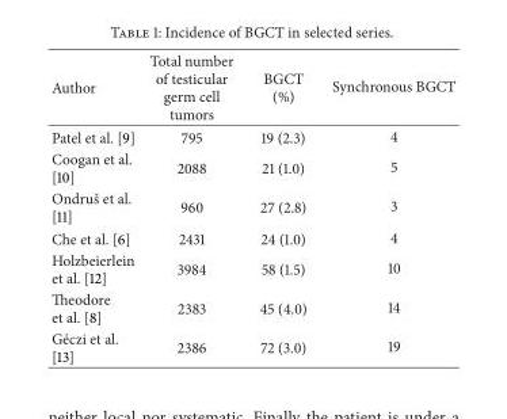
<table><thead><tr><td>Author</td><td>Total number of testicular germ cell tumors</td><td>BGCT (%)</td><td>Synchronous BGCT</td></tr></thead><tbody><tr><td>Patel et al. [9]</td><td>795</td><td>19 (2.3)</td><td>4</td></tr><tr><td>Coogan et al. [10]</td><td>2088</td><td>21 (1.0)</td><td>5</td></tr><tr><td>Ondruˇs et al. [11]</td><td>960</td><td>27 (2.8)</td><td>3</td></tr><tr><td>Che et al. [6]</td><td>2431</td><td>24 (1.0)</td><td>4</td></tr><tr><td>Holzbeierlein et al. [12]</td><td>3984</td><td>58 (1.5)</td><td>10</td></tr><tr><td>Theodore et al. [8]</td><td>2383</td><td>45 (4.0)</td><td>14</td></tr><tr><td>G´eczi et al. [13]</td><td>2386</td><td>72 (3.0)</td><td>19</td></tr></tbody></table>